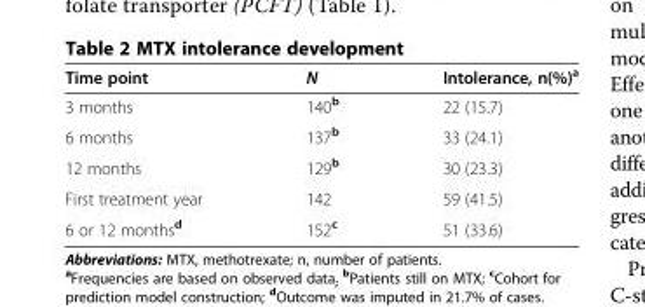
<table><thead><tr><td>Time point</td><td>N</td><td>Intolerance, n(%)<sup>a</sup></td></tr></thead><tbody><tr><td>3 months</td><td>140<sup>b</sup></td><td>22 (15.7)</td></tr><tr><td>6 months</td><td>137<sup>b</sup></td><td>33 (24.1)</td></tr><tr><td>12 months</td><td>129<sup>b</sup></td><td>30 (23.3)</td></tr><tr><td>First treatment year</td><td>142</td><td>59 (41.5)</td></tr><tr><td>6 or 12 months<sup>d</sup></td><td>152<sup>c</sup></td><td>51 (33.6)</td></tr></tbody></table>